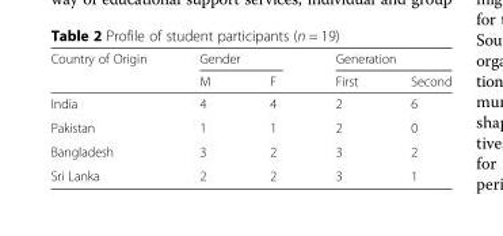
<table><thead><tr><td rowspan="2">Country of Origin</td><td colspan="2">Gender</td><td colspan="2">Generation</td></tr><tr><td>M</td><td>F</td><td>First</td><td>Second</td></tr></thead><tbody><tr><td>India</td><td>4</td><td>4</td><td>2</td><td>6</td></tr><tr><td>Pakistan</td><td>1</td><td>1</td><td>2</td><td>0</td></tr><tr><td>Bangladesh</td><td>3</td><td>2</td><td>3</td><td>2</td></tr><tr><td>Sri Lanka</td><td>2</td><td>2</td><td>3</td><td>1</td></tr></tbody></table>